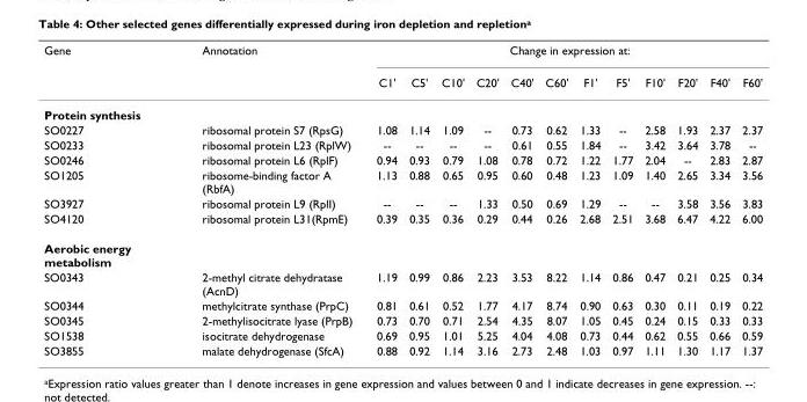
<table><thead><tr><td rowspan="2">Gene</td><td rowspan="2">Annotation</td><td colspan="12">Change in expression at:</td></tr><tr><td>C1&#x27;</td><td>C5&#x27;</td><td>C10&#x27;</td><td>C20&#x27;</td><td>C40&#x27;</td><td>C60&#x27;</td><td>F1&#x27;</td><td>F5&#x27;</td><td>F10&#x27;</td><td>F20&#x27;</td><td>F40&#x27;</td><td>F60&#x27;</td></tr></thead><tbody><tr><td colspan="14">Protein synthesis</td></tr><tr><td>SO0227</td><td>ribosomal protein S7 (RpsG)</td><td>1.08</td><td>1.14</td><td>1.09</td><td>--</td><td>0.73</td><td>0.62</td><td>1.33</td><td>--</td><td>2.58</td><td>1.93</td><td>2.37</td><td>2.37</td></tr><tr><td>SO0233</td><td>ribosomal protein L23 (RplW)</td><td>--</td><td>--</td><td>--</td><td>--</td><td>0.61</td><td>0.55</td><td>1.84</td><td>--</td><td>3.42</td><td>3.64</td><td>3.78</td><td>--</td></tr><tr><td>SO0246</td><td>ribosomal protein L6 (RplF)</td><td>0.94</td><td>0.93</td><td>0.79</td><td>1.08</td><td>0.78</td><td>0.72</td><td>1.22</td><td>1.77</td><td>2.04</td><td>--</td><td>2.83</td><td>2.87</td></tr><tr><td>SO1205</td><td>ribosome-binding factor A (RbfA)</td><td>1.13</td><td>0.88</td><td>0.65</td><td>0.95</td><td>0.60</td><td>0.48</td><td>1.23</td><td>1.09</td><td>1.40</td><td>2.65</td><td>3.34</td><td>3.56</td></tr><tr><td>SO3927</td><td>ribosomal protein L9 (RplI)</td><td>--</td><td>--</td><td>--</td><td>1.33</td><td>0.50</td><td>0.69</td><td>1.29</td><td>--</td><td>--</td><td>3.58</td><td>3.56</td><td>3.83</td></tr><tr><td>SO4120</td><td>ribosomal protein L31(RpmE)</td><td>0.39</td><td>0.35</td><td>0.36</td><td>0.29</td><td>0.44</td><td>0.26</td><td>2.68</td><td>2.51</td><td>3.68</td><td>6.47</td><td>4.22</td><td>6.00</td></tr><tr><td colspan="14">Aerobic energy metabolism</td></tr><tr><td>SO0343</td><td>2-methyl citrate dehydratase (AcnD)</td><td>1.19</td><td>0.99</td><td>0.86</td><td>2.23</td><td>3.53</td><td>8.22</td><td>1.14</td><td>0.86</td><td>0.47</td><td>0.21</td><td>0.25</td><td>0.34</td></tr><tr><td>SO0344</td><td>methylcitrate synthase (PrpC)</td><td>0.81</td><td>0.61</td><td>0.52</td><td>1.77</td><td>4.17</td><td>8.74</td><td>0.90</td><td>0.63</td><td>0.30</td><td>0.11</td><td>0.19</td><td>0.22</td></tr><tr><td>SO0345</td><td>2-methylisocitrate lyase (PrpB)</td><td>0.73</td><td>0.70</td><td>0.71</td><td>2.54</td><td>4.35</td><td>8.07</td><td>1.05</td><td>0.45</td><td>0.24</td><td>0.15</td><td>0.33</td><td>0.33</td></tr><tr><td>SO1538</td><td>isocitrate dehydrogenase</td><td>0.69</td><td>0.95</td><td>1.01</td><td>5.25</td><td>4.04</td><td>4.08</td><td>0.73</td><td>0.44</td><td>0.62</td><td>0.55</td><td>0.66</td><td>0.59</td></tr><tr><td>SO3855</td><td>malate dehydrogenase (SfcA)</td><td>0.88</td><td>0.92</td><td>1.14</td><td>3.16</td><td>2.73</td><td>2.48</td><td>1.03</td><td>0.97</td><td>1.11</td><td>1.30</td><td>1.17</td><td>1.37</td></tr></tbody></table>